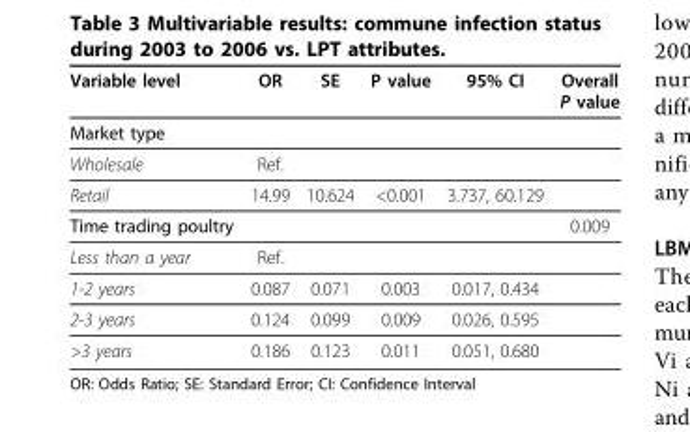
<table><thead><tr><td>Variable level</td><td>OR</td><td>SE</td><td>P value</td><td>95% CI</td><td>Overall P value</td></tr></thead><tbody><tr><td colspan="6">Market type</td></tr><tr><td>Wholesale</td><td>Ref.</td><td></td><td></td><td></td><td></td></tr><tr><td>Retail</td><td>14.99</td><td>10.624</td><td>&lt;0.001</td><td>3.737, 60.129</td><td></td></tr><tr><td>Time trading poultry</td><td></td><td></td><td></td><td></td><td>0.009</td></tr><tr><td>Less than a year</td><td>Ref.</td><td></td><td></td><td></td><td></td></tr><tr><td>1-2 years</td><td>0.087</td><td>0.071</td><td>0.003</td><td>0.017, 0.434</td><td></td></tr><tr><td>2-3 years</td><td>0.124</td><td>0.099</td><td>0.009</td><td>0.026, 0.595</td><td></td></tr><tr><td>&gt;3 years</td><td>0.186</td><td>0.123</td><td>0.011</td><td>0.051, 0.680</td><td></td></tr></tbody></table>